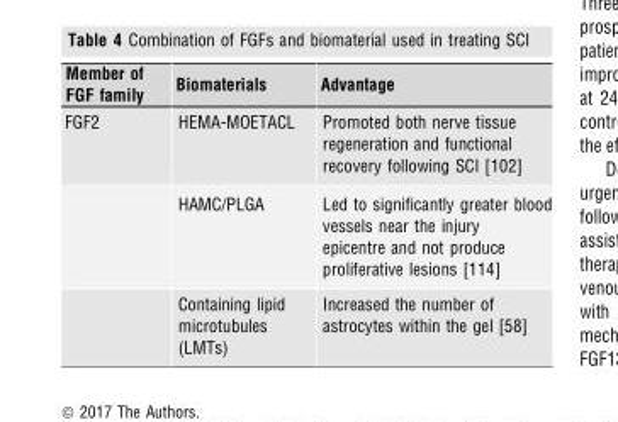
<table><thead><tr><td>Member of FGF family</td><td>Biomaterials</td><td>Advantage</td></tr></thead><tbody><tr><td rowspan="3">FGF2</td><td>HEMA-MOETACL</td><td>Promoted both nerve tissue regeneration and functional recovery following SCI [102]</td></tr><tr><td>HAMC/PLGA</td><td>Led to significantly greater blood vessels near the injury epicentre and not produce proliferative lesions [114]</td></tr><tr><td>Containing lipid microtubules (LMTs)</td><td>Increased the number of astrocytes within the gel [58]</td></tr></tbody></table>